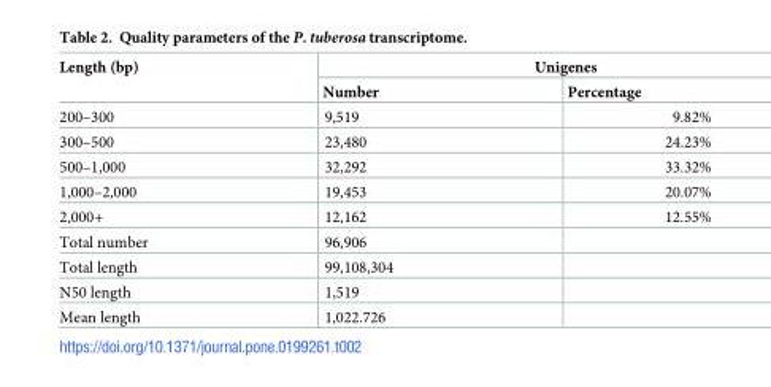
<table><thead><tr><td rowspan="2">Length (bp)</td><td colspan="2">Unigenes</td></tr><tr><td>Number</td><td>Percentage</td></tr></thead><tbody><tr><td>200–300</td><td>9,519</td><td>9.82%</td></tr><tr><td>300–500</td><td>23,480</td><td>24.23%</td></tr><tr><td>500–1,000</td><td>32,292</td><td>33.32%</td></tr><tr><td>1,000–2,000</td><td>19,453</td><td>20.07%</td></tr><tr><td>2,000+</td><td>12,162</td><td>12.55%</td></tr><tr><td>Total number</td><td>96,906</td><td></td></tr><tr><td>Total length</td><td>99,108,304</td><td></td></tr><tr><td>N50 length</td><td>1,519</td><td></td></tr><tr><td>Mean length</td><td>1,022.726</td><td></td></tr></tbody></table>